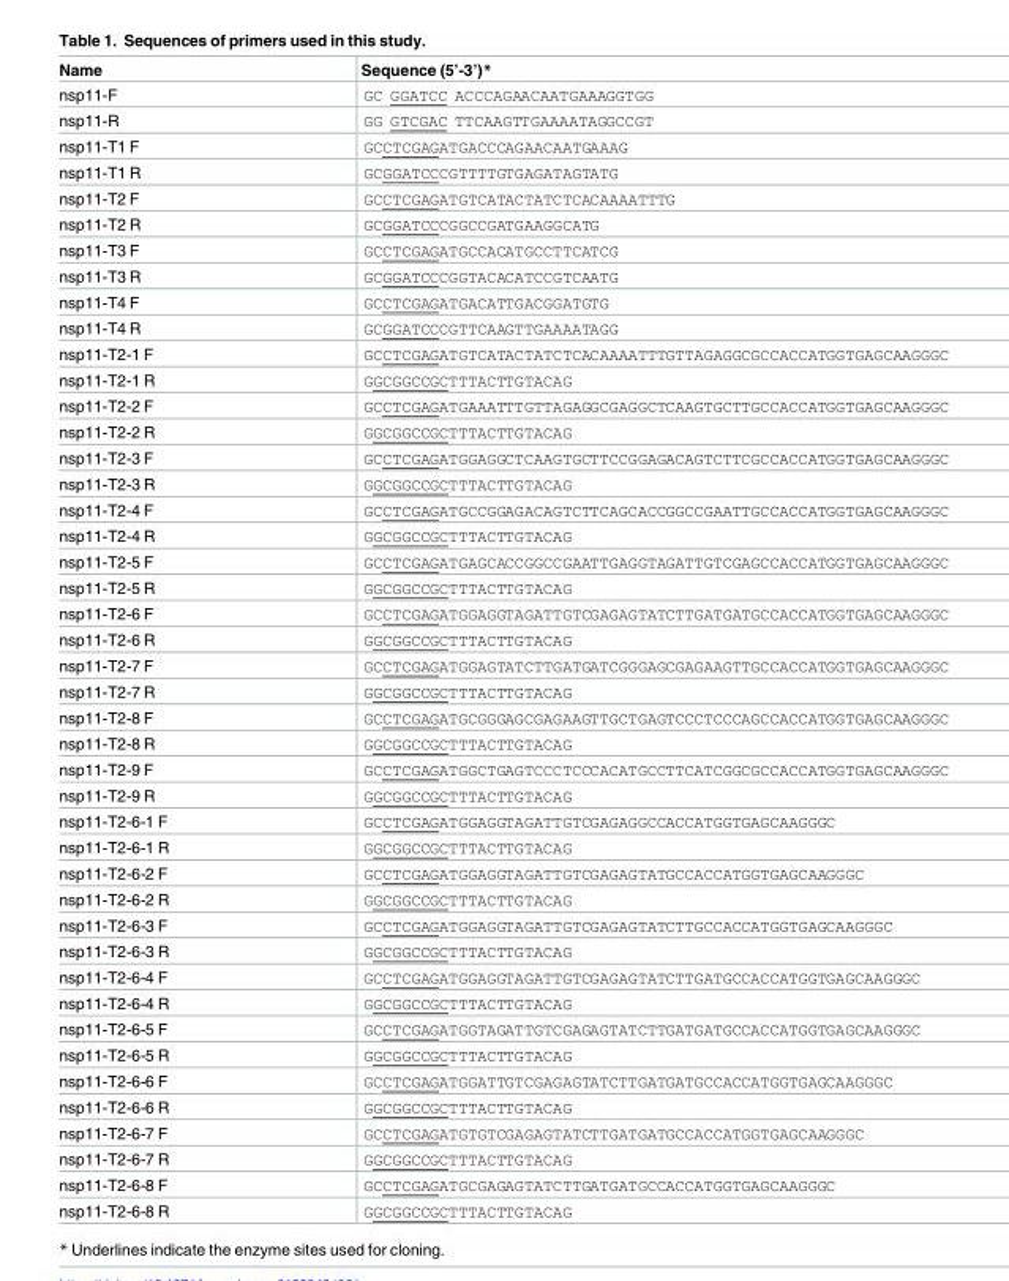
<table><thead><tr><td>Name</td><td>Sequence (5’-3’)*</td></tr></thead><tbody><tr><td>nsp11-F</td><td>GC GGATCC ACCCAGAACAATGAAAGGTGG</td></tr><tr><td>nsp11-R</td><td>GG GTCGAC TTCAAGTTGAAAATAGGCCGT</td></tr><tr><td>nsp11-T1 F</td><td>GCCTCGAGATGACCCAGAACAATGAAAG</td></tr><tr><td>nsp11-T1 R</td><td>GCGGATCCCGTTTTGTGAGATAGTATG</td></tr><tr><td>nsp11-T2 F</td><td>GCCTCGAGATGTCATACTATCTCACAAAATTTG</td></tr><tr><td>nsp11-T2 R</td><td>GCGGATCCCGGCCGATGAAGGCATG</td></tr><tr><td>nsp11-T3 F</td><td>GCCTCGAGATGCCACATGCCTTCATCG</td></tr><tr><td>nsp11-T3 R</td><td>GCGGATCCCGGTACACATCCGTCAATG</td></tr><tr><td>nsp11-T4 F</td><td>GCCTCGAGATGACATTGACGGATGTG</td></tr><tr><td>nsp11-T4 R</td><td>GCGGATCCCGTTCAAGTTGAAAATAGG</td></tr><tr><td>nsp11-T2-1 F</td><td>GCCTCGAGATGTCATACTATCTCACAAAATTTGTTAGAGGCGCCACCATGGTGAGCAAGGGC</td></tr><tr><td>nsp11-T2-1 R</td><td>GGCGGCCGCTTTACTTGTACAG</td></tr><tr><td>nsp11-T2-2 F</td><td>GCCTCGAGATGAAATTTGTTAGAGGCGAGGCTCAAGTGCTTGCCACCATGGTGAGCAAGGGC</td></tr><tr><td>nsp11-T2-2 R</td><td>GGCGGCCGCTTTACTTGTACAG</td></tr><tr><td>nsp11-T2-3 F</td><td>GCCTCGAGATGGAGGCTCAAGTGCTTCCGGAGACAGTCTTCGCCACCATGGTGAGCAAGGGC</td></tr><tr><td>nsp11-T2-3 R</td><td>GGCGGCCGCTTTACTTGTACAG</td></tr><tr><td>nsp11-T2-4 F</td><td>GCCTCGAGATGCCGGAGACAGTCTTCAGCACCGGCCGAATTGCCACCATGGTGAGCAAGGGC</td></tr><tr><td>nsp11-T2-4 R</td><td>GGCGGCCGCTTTACTTGTACAG</td></tr><tr><td>nsp11-T2-5 F</td><td>GCCTCGAGATGAGCACCGGCCGAATTGAGGTAGATTGTCGAGCCACCATGGTGAGCAAGGGC</td></tr><tr><td>nsp11-T2-5 R</td><td>GGCGGCCGCTTTACTTGTACAG</td></tr><tr><td>nsp11-T2-6 F</td><td>GCCTCGAGATGGAGGTAGATTGTCGAGAGTATCTTGATGATGCCACCATGGTGAGCAAGGGC</td></tr><tr><td>nsp11-T2-6 R</td><td>GGCGGCCGCTTTACTTGTACAG</td></tr><tr><td>nsp11-T2-7 F</td><td>GCCTCGAGATGGAGTATCTTGATGATCGGGAGCGAGAAGTTGCCACCATGGTGAGCAAGGGC</td></tr><tr><td>nsp11-T2-7 R</td><td>GGCGGCCGCTTTACTTGTACAG</td></tr><tr><td>nsp11-T2-8 F</td><td>GCCTCGAGATGCGGGAGCGAGAAGTTGCTGAGTCCCTCCCAGCCACCATGGTGAGCAAGGGC</td></tr><tr><td>nsp11-T2-8 R</td><td>GGCGGCCGCTTTACTTGTACAG</td></tr><tr><td>nsp11-T2-9 F</td><td>GCCTCGAGATGGCTGAGTCCCTCCCACATGCCTTCATCGGCGCCACCATGGTGAGCAAGGGC</td></tr><tr><td>nsp11-T2-9 R</td><td>GGCGGCCGCTTTACTTGTACAG</td></tr><tr><td>nsp11-T2-6-1 F</td><td>GCCTCGAGATGGAGGTAGATTGTCGAGAGGCCACCATGGTGAGCAAGGGC</td></tr><tr><td>nsp11-T2-6-1 R</td><td>GGCGGCCGCTTTACTTGTACAG</td></tr><tr><td>nsp11-T2-6-2 F</td><td>GCCTCGAGATGGAGGTAGATTGTCGAGAGTATGCCACCATGGTGAGCAAGGGC</td></tr><tr><td>nsp11-T2-6-2 R</td><td>GGCGGCCGCTTTACTTGTACAG</td></tr><tr><td>nsp11-T2-6-3 F</td><td>GCCTCGAGATGGAGGTAGATTGTCGAGAGTATCTTGCCACCATGGTGAGCAAGGGC</td></tr><tr><td>nsp11-T2-6-3 R</td><td>GGCGGCCGCTTTACTTGTACAG</td></tr><tr><td>nsp11-T2-6-4 F</td><td>GCCTCGAGATGGAGGTAGATTGTCGAGAGTATCTTGATGCCACCATGGTGAGCAAGGGC</td></tr><tr><td>nsp11-T2-6-4 R</td><td>GGCGGCCGCTTTACTTGTACAG</td></tr><tr><td>nsp11-T2-6-5 F</td><td>GCCTCGAGATGGTAGATTGTCGAGAGTATCTTGATGATGCCACCATGGTGAGCAAGGGC</td></tr><tr><td>nsp11-T2-6-5 R</td><td>GGCGGCCGCTTTACTTGTACAG</td></tr><tr><td>nsp11-T2-6-6 F</td><td>GCCTCGAGATGGATTGTCGAGAGTATCTTGATGATGCCACCATGGTGAGCAAGGGC</td></tr><tr><td>nsp11-T2-6-6 R</td><td>GGCGGCCGCTTTACTTGTACAG</td></tr><tr><td>nsp11-T2-6-7 F</td><td>GCCTCGAGATGTGTCGAGAGTATCTTGATGATGCCACCATGGTGAGCAAGGGC</td></tr><tr><td>nsp11-T2-6-7 R</td><td>GGCGGCCGCTTTACTTGTACAG</td></tr><tr><td>nsp11-T2-6-8 F</td><td>GCCTCGAGATGCGAGAGTATCTTGATGATGCCACCATGGTGAGCAAGGGC</td></tr><tr><td>nsp11-T2-6-8 R</td><td>GGCGGCCGCTTTACTTGTACAG</td></tr></tbody></table>